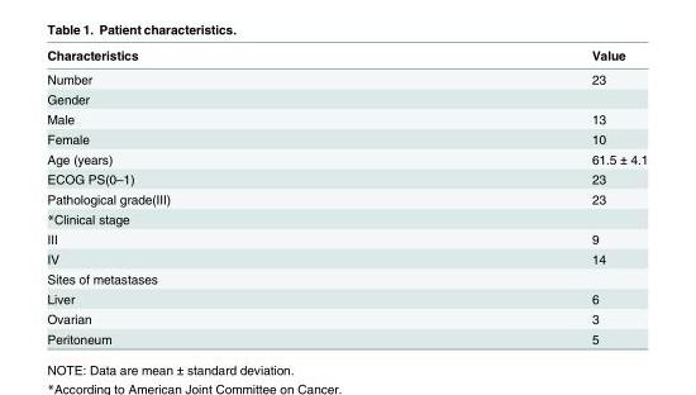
<table><thead><tr><td>Characteristics</td><td>Value</td></tr></thead><tbody><tr><td>Number</td><td>23</td></tr><tr><td colspan="2">Gender</td></tr><tr><td>Male</td><td>13</td></tr><tr><td>Female</td><td>10</td></tr><tr><td>Age (years)</td><td>61.5 ± 4.1</td></tr><tr><td>ECOG PS(0–1)</td><td>23</td></tr><tr><td>Pathological grade(III)</td><td>23</td></tr><tr><td colspan="2">*Clinical stage</td></tr><tr><td>III</td><td>9</td></tr><tr><td>IV</td><td>14</td></tr><tr><td colspan="2">Sites of metastases</td></tr><tr><td>Liver</td><td>6</td></tr><tr><td>Ovarian</td><td>3</td></tr><tr><td>Peritoneum</td><td>5</td></tr></tbody></table>